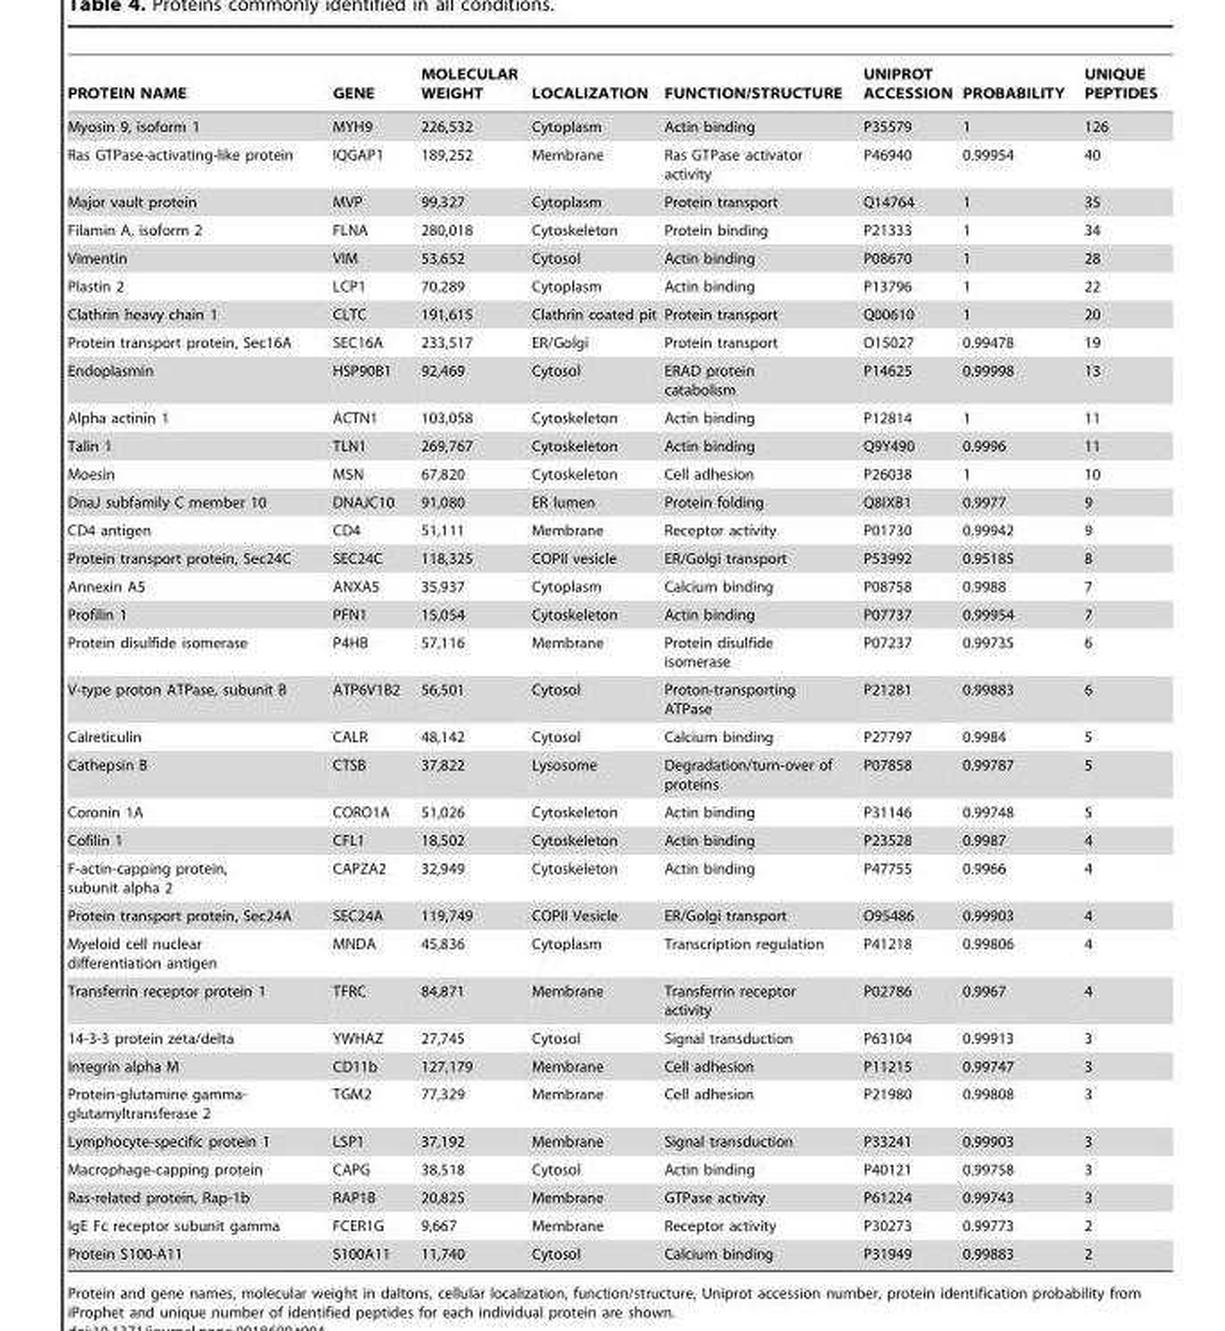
<table><thead><tr><td>PROTEIN NAME</td><td>GENE</td><td>MOLECULAR WEIGHT</td><td>LOCALIZATION</td><td>FUNCTION/STRUCTURE</td><td>UNIPROT ACCESSION</td><td>PROBABILITY</td><td>UNIQUE PEPTIDES</td></tr></thead><tbody><tr><td>Myosin 9, isoform 1</td><td>MYH9</td><td>226,532</td><td>Cytoplasm</td><td>Actin binding</td><td>P35579</td><td>1</td><td>126</td></tr><tr><td>Ras GTPase-activating-like protein</td><td>IQGAP1</td><td>189,252</td><td>Membrane</td><td>Ras GTPase activator activity</td><td>P46940</td><td>0.99954</td><td>40</td></tr><tr><td>Major vault protein</td><td>MVP</td><td>99,327</td><td>Cytoplasm</td><td>Protein transport</td><td>Q14764</td><td>1</td><td>35</td></tr><tr><td>Filamin A, isoform 2</td><td>FLNA</td><td>280,018</td><td>Cytoskeleton</td><td>Protein binding</td><td>P21333</td><td>1</td><td>34</td></tr><tr><td>Vimentin</td><td>VIM</td><td>53,652</td><td>Cytosol</td><td>Actin binding</td><td>P08670</td><td>1</td><td>28</td></tr><tr><td>Plastin 2</td><td>LCP1</td><td>70,289</td><td>Cytoplasm</td><td>Actin binding</td><td>P13796</td><td>1</td><td>22</td></tr><tr><td>Clathrin heavy chain 1</td><td>CLTC</td><td>191,615</td><td>Clathrin coated pit</td><td>Protein transport</td><td>Q00610</td><td>1</td><td>20</td></tr><tr><td>Protein transport protein, Sec16A</td><td>SEC16A</td><td>233,517</td><td>ER/Golgi</td><td>Protein transport</td><td>O15027</td><td>0.99478</td><td>19</td></tr><tr><td>Endoplasmin</td><td>HSP90B1</td><td>92,469</td><td>Cytosol</td><td>ERAD protein catabolism</td><td>P14625</td><td>0.99998</td><td>13</td></tr><tr><td>Alpha actinin 1</td><td>ACTN1</td><td>103,058</td><td>Cytoskeleton</td><td>Actin binding</td><td>P12814</td><td>1</td><td>11</td></tr><tr><td>Talin 1</td><td>TLN1</td><td>269,767</td><td>Cytoskeleton</td><td>Actin binding</td><td>Q9Y490</td><td>0.9996</td><td>11</td></tr><tr><td>Moesin</td><td>MSN</td><td>67,820</td><td>Cytoskeleton</td><td>Cell adhesion</td><td>P26038</td><td>1</td><td>10</td></tr><tr><td>DnaJ subfamily C member 10</td><td>DNAJC10</td><td>91,080</td><td>ER lumen</td><td>Protein folding</td><td>Q8IXB1</td><td>0.9977</td><td>9</td></tr><tr><td>CD4 antigen</td><td>CD4</td><td>51,111</td><td>Membrane</td><td>Receptor activity</td><td>P01730</td><td>0.99942</td><td>9</td></tr><tr><td>Protein transport protein, Sec24C</td><td>SEC24C</td><td>118,325</td><td>COPII vesicle</td><td>ER/Golgi transport</td><td>P53992</td><td>0.95185</td><td>8</td></tr><tr><td>Annexin A5</td><td>ANXA5</td><td>35,937</td><td>Cytoplasm</td><td>Calcium binding</td><td>P08758</td><td>0.9988</td><td>7</td></tr><tr><td>Profilin 1</td><td>PFN1</td><td>15,054</td><td>Cytoskeleton</td><td>Actin binding</td><td>P07737</td><td>0.99954</td><td>7</td></tr><tr><td>Protein disulfide isomerase</td><td>P4HB</td><td>57,116</td><td>Membrane</td><td>Protein disulfide isomerase</td><td>P07237</td><td>0.99735</td><td>6</td></tr><tr><td>V-type proton ATPase, subunit B</td><td>ATP6V1B2</td><td>56,501</td><td>Cytosol</td><td>Proton-transporting ATPase</td><td>P21281</td><td>0.99883</td><td>6</td></tr><tr><td>Calreticulin</td><td>CALR</td><td>48,142</td><td>Cytosol</td><td>Calcium binding</td><td>P27797</td><td>0.9984</td><td>5</td></tr><tr><td>Cathepsin B</td><td>CTSB</td><td>37,822</td><td>Lysosome</td><td>Degradation/turn-over of proteins</td><td>P07858</td><td>0.99787</td><td>5</td></tr><tr><td>Coronin 1A</td><td>CORO1A</td><td>51,026</td><td>Cytoskeleton</td><td>Actin binding</td><td>P31146</td><td>0.99748</td><td>5</td></tr><tr><td>Cofilin 1</td><td>CFL1</td><td>18,502</td><td>Cytoskeleton</td><td>Actin binding</td><td>P23528</td><td>0.9987</td><td>4</td></tr><tr><td>F-actin-capping protein, subunit alpha 2</td><td>CAPZA2</td><td>32,949</td><td>Cytoskeleton</td><td>Actin binding</td><td>P47755</td><td>0.9966</td><td>4</td></tr><tr><td>Protein transport protein, Sec24A</td><td>SEC24A</td><td>119,749</td><td>COPII Vesicle</td><td>ER/Golgi transport</td><td>O95486</td><td>0.99903</td><td>4</td></tr><tr><td>Myeloid cell nuclear differentiation antigen</td><td>MNDA</td><td>45,836</td><td>Cytoplasm</td><td>Transcription regulation</td><td>P41218</td><td>0.99806</td><td>4</td></tr><tr><td>Transferrin receptor protein 1</td><td>TFRC</td><td>84,871</td><td>Membrane</td><td>Transferrin receptor activity</td><td>P02786</td><td>0.9967</td><td>4</td></tr><tr><td>14-3-3 protein zeta/delta</td><td>YWHAZ</td><td>27,745</td><td>Cytosol</td><td>Signal transduction</td><td>P63104</td><td>0.99913</td><td>3</td></tr><tr><td>Integrin alpha M</td><td>CD11b</td><td>127,179</td><td>Membrane</td><td>Cell adhesion</td><td>P11215</td><td>0.99747</td><td>3</td></tr><tr><td>Protein-glutamine gamma- glutamyltransferase 2</td><td>TGM2</td><td>77,329</td><td>Membrane</td><td>Cell adhesion</td><td>P21980</td><td>0.99808</td><td>3</td></tr><tr><td>Lymphocyte-specific protein 1</td><td>LSP1</td><td>37,192</td><td>Membrane</td><td>Signal transduction</td><td>P33241</td><td>0.99903</td><td>3</td></tr><tr><td>Macrophage-capping protein</td><td>CAPG</td><td>38,518</td><td>Cytosol</td><td>Actin binding</td><td>P40121</td><td>0.99758</td><td>3</td></tr><tr><td>Ras-related protein, Rap-1b</td><td>RAP1B</td><td>20,825</td><td>Membrane</td><td>GTPase activity</td><td>P61224</td><td>0.99743</td><td>3</td></tr><tr><td>IgE Fc receptor subunit gamma</td><td>FCER1G</td><td>9,667</td><td>Membrane</td><td>Receptor activity</td><td>P30273</td><td>0.99773</td><td>2</td></tr><tr><td>Protein S100-A11</td><td>S100A11</td><td>11,740</td><td>Cytosol</td><td>Calcium binding</td><td>P31949</td><td>0.99883</td><td>2</td></tr></tbody></table>